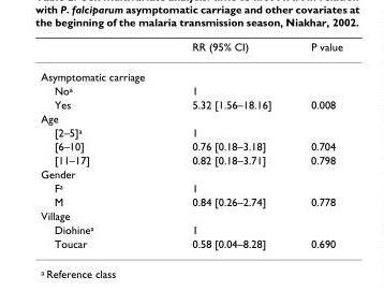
<table><thead><tr><td></td><td>RR (95% CI)</td><td>P value</td></tr></thead><tbody><tr><td colspan="3">Asymptomatic carriage</td></tr><tr><td>No<sup>a</sup></td><td>1</td><td></td></tr><tr><td>Yes</td><td>5.32 [1.56–18.16]</td><td>0.008</td></tr><tr><td colspan="3">Age</td></tr><tr><td>[2–5]<sup>a</sup></td><td>1</td><td></td></tr><tr><td>[6–10]</td><td>0.76 [0.18–3.18]</td><td>0.704</td></tr><tr><td>[11–17]</td><td>0.82 [0.18–3.71]</td><td>0.798</td></tr><tr><td colspan="3">Gender</td></tr><tr><td>F<sup>a</sup></td><td>1</td><td></td></tr><tr><td>M</td><td>0.84 [0.26–2.74]</td><td>0.778</td></tr><tr><td colspan="3">Village</td></tr><tr><td>Diohine<sup>a</sup></td><td>1</td><td></td></tr><tr><td>Toucar</td><td>0.58 [0.04–8.28]</td><td>0.690</td></tr></tbody></table>